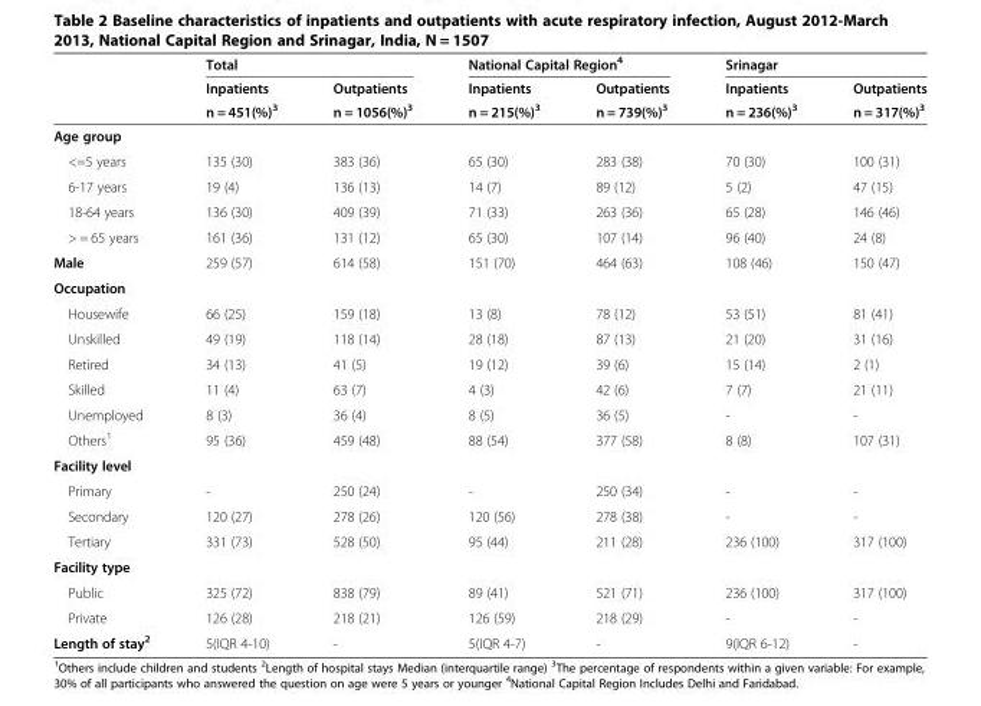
<table><thead><tr><td rowspan="3"></td><td colspan="2">Total</td><td colspan="2">National Capital Region<sup>4</sup></td><td colspan="2">Srinagar</td></tr><tr><td rowspan="2">Inpatients n = 451(%)<sup>3</sup></td><td rowspan="2">Outpatients n = 1056(%)<sup>3</sup></td><td rowspan="2">Inpatients n = 215(%)<sup>3</sup></td><td rowspan="2">Outpatients n = 739(%)<sup>3</sup></td><td rowspan="2">Inpatients n = 236(%)<sup>3</sup></td><td rowspan="2">Outpatients n = 317(%)<sup>3</sup></td></tr><tr></tr></thead><tbody><tr><td colspan="7">Age group</td></tr><tr><td>&lt;=5 years</td><td>135 (30)</td><td>383 (36)</td><td>65 (30)</td><td>283 (38)</td><td>70 (30)</td><td>100 (31)</td></tr><tr><td>6-17 years</td><td>19 (4)</td><td>136 (13)</td><td>14 (7)</td><td>89 (12)</td><td>5 (2)</td><td>47 (15)</td></tr><tr><td>18-64 years</td><td>136 (30)</td><td>409 (39)</td><td>71 (33)</td><td>263 (36)</td><td>65 (28)</td><td>146 (46)</td></tr><tr><td>&gt; = 65 years</td><td>161 (36)</td><td>131 (12)</td><td>65 (30)</td><td>107 (14)</td><td>96 (40)</td><td>24 (8)</td></tr><tr><td>Male</td><td>259 (57)</td><td>614 (58)</td><td>151 (70)</td><td>464 (63)</td><td>108 (46)</td><td>150 (47)</td></tr><tr><td colspan="7">Occupation</td></tr><tr><td>Housewife</td><td>66 (25)</td><td>159 (18)</td><td>13 (8)</td><td>78 (12)</td><td>53 (51)</td><td>81 (41)</td></tr><tr><td>Unskilled</td><td>49 (19)</td><td>118 (14)</td><td>28 (18)</td><td>87 (13)</td><td>21 (20)</td><td>31 (16)</td></tr><tr><td>Retired</td><td>34 (13)</td><td>41 (5)</td><td>19 (12)</td><td>39 (6)</td><td>15 (14)</td><td>2 (1)</td></tr><tr><td>Skilled</td><td>11 (4)</td><td>63 (7)</td><td>4 (3)</td><td>42 (6)</td><td>7 (7)</td><td>21 (11)</td></tr><tr><td>Unemployed</td><td>8 (3)</td><td>36 (4)</td><td>8 (5)</td><td>36 (5)</td><td>-</td><td>-</td></tr><tr><td>Others<sup>1</sup></td><td>95 (36)</td><td>459 (48)</td><td>88 (54)</td><td>377 (58)</td><td>8 (8)</td><td>107 (31)</td></tr><tr><td colspan="7">Facility level</td></tr><tr><td>Primary</td><td>-</td><td>250 (24)</td><td>-</td><td>250 (34)</td><td>-</td><td>-</td></tr><tr><td>Secondary</td><td>120 (27)</td><td>278 (26)</td><td>120 (56)</td><td>278 (38)</td><td>-</td><td>-</td></tr><tr><td>Tertiary</td><td>331 (73)</td><td>528 (50)</td><td>95 (44)</td><td>211 (28)</td><td>236 (100)</td><td>317 (100)</td></tr><tr><td colspan="7">Facility type</td></tr><tr><td>Public</td><td>325 (72)</td><td>838 (79)</td><td>89 (41)</td><td>521 (71)</td><td>236 (100)</td><td>317 (100)</td></tr><tr><td>Private</td><td>126 (28)</td><td>218 (21)</td><td>126 (59)</td><td>218 (29)</td><td>-</td><td>-</td></tr><tr><td>Length of stay<sup>2</sup></td><td>5(IQR 4-10)</td><td>-</td><td>5(IQR 4-7)</td><td>-</td><td>9(IQR 6-12)</td><td>-</td></tr></tbody></table>